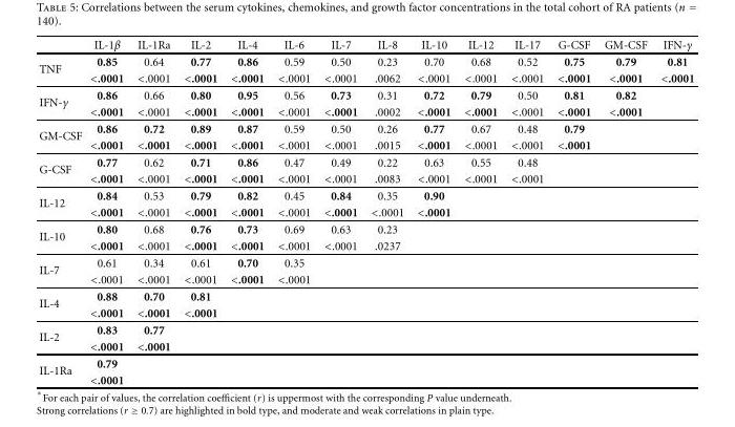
<table><thead><tr><td></td><td>IL-1β</td><td>IL-1Ra</td><td>IL-2</td><td>IL-4</td><td>IL-6</td><td>IL-7</td><td>IL-8</td><td>IL-10</td><td>IL-12</td><td>IL-17</td><td>G-CSF</td><td>GM-CSF</td><td>IFN-γ</td></tr></thead><tbody><tr><td rowspan="2">TNF</td><td>0.85</td><td>0.64</td><td>0.77</td><td>0.86</td><td>0.59</td><td>0.50</td><td>0.23</td><td>0.70</td><td>0.68</td><td>0.52</td><td>0.75</td><td>0.79</td><td>0.81</td></tr><tr><td>&lt;.0001</td><td>&lt;.0001</td><td>&lt;.0001</td><td>&lt;.0001</td><td>&lt;.0001</td><td>&lt;.0001</td><td>.0062</td><td>&lt;.0001</td><td>&lt;.0001</td><td>&lt;.0001</td><td>&lt;.0001</td><td>&lt;.0001</td><td>&lt;.0001</td></tr><tr><td rowspan="2">IFN-γ</td><td>0.86</td><td>0.66</td><td>0.80</td><td>0.95</td><td>0.56</td><td>0.73</td><td>0.31</td><td>0.72</td><td>0.79</td><td>0.50</td><td>0.81</td><td>0.82</td><td></td></tr><tr><td>&lt;.0001</td><td>&lt;.0001</td><td>&lt;.0001</td><td>&lt;.0001</td><td>&lt;.0001</td><td>&lt;.0001</td><td>.0002</td><td>&lt;.0001</td><td>&lt;.0001</td><td>&lt;.0001</td><td>&lt;.0001</td><td>&lt;.0001</td><td></td></tr><tr><td rowspan="2">GM-CSF</td><td>0.86</td><td>0.72</td><td>0.89</td><td>0.87</td><td>0.59</td><td>0.50</td><td>0.26</td><td>0.77</td><td>0.67</td><td>0.48</td><td>0.79</td><td></td><td></td></tr><tr><td>&lt;.0001</td><td>&lt;.0001</td><td>&lt;.0001</td><td>&lt;.0001</td><td>&lt;.0001</td><td>&lt;.0001</td><td>.0015</td><td>&lt;.0001</td><td>&lt;.0001</td><td>&lt;.0001</td><td>&lt;.0001</td><td></td><td></td></tr><tr><td rowspan="2">G-CSF</td><td>0.77</td><td>0.62</td><td>0.71</td><td>0.86</td><td>0.47</td><td>0.49</td><td>0.22</td><td>0.63</td><td>0.55</td><td>0.48</td><td></td><td></td><td></td></tr><tr><td>&lt;.0001</td><td>&lt;.0001</td><td>&lt;.0001</td><td>&lt;.0001</td><td>&lt;.0001</td><td>&lt;.0001</td><td>.0083</td><td>&lt;.0001</td><td>&lt;.0001</td><td>&lt;.0001</td><td></td><td></td><td></td></tr><tr><td rowspan="2">IL-12</td><td>0.84</td><td>0.53</td><td>0.79</td><td>0.82</td><td>0.45</td><td>0.84</td><td>0.35</td><td>0.90</td><td></td><td></td><td></td><td></td><td></td></tr><tr><td>&lt;.0001</td><td>&lt;.0001</td><td>&lt;.0001</td><td>&lt;.0001</td><td>&lt;.0001</td><td>&lt;.0001</td><td>&lt;.0001</td><td>&lt;.0001</td><td></td><td></td><td></td><td></td><td></td></tr><tr><td rowspan="2">IL-10</td><td>0.80</td><td>0.68</td><td>0.76</td><td>0.73</td><td>0.69</td><td>0.63</td><td>0.23</td><td></td><td></td><td></td><td></td><td></td><td></td></tr><tr><td>&lt;.0001</td><td>&lt;.0001</td><td>&lt;.0001</td><td>&lt;.0001</td><td>&lt;.0001</td><td>&lt;.0001</td><td>.0237</td><td></td><td></td><td></td><td></td><td></td><td></td></tr><tr><td rowspan="2">IL-7</td><td>0.61</td><td>0.34</td><td>0.61</td><td>0.70</td><td>0.35</td><td></td><td></td><td></td><td></td><td></td><td></td><td></td><td></td></tr><tr><td>&lt;.0001</td><td>&lt;.0001</td><td>&lt;.0001</td><td>&lt;.0001</td><td>&lt;.0001</td><td></td><td></td><td></td><td></td><td></td><td></td><td></td><td></td></tr><tr><td rowspan="2">IL-4</td><td>0.88</td><td>0.70</td><td>0.81</td><td></td><td></td><td></td><td></td><td></td><td></td><td></td><td></td><td></td><td></td></tr><tr><td>&lt;.0001</td><td>&lt;.0001</td><td>&lt;.0001</td><td></td><td></td><td></td><td></td><td></td><td></td><td></td><td></td><td></td><td></td></tr><tr><td rowspan="2">IL-2</td><td>0.83</td><td>0.77</td><td></td><td></td><td></td><td></td><td></td><td></td><td></td><td></td><td></td><td></td><td></td></tr><tr><td>&lt;.0001</td><td>&lt;.0001</td><td></td><td></td><td></td><td></td><td></td><td></td><td></td><td></td><td></td><td></td><td></td></tr><tr><td rowspan="2">IL-1Ra</td><td>0.79</td><td></td><td></td><td></td><td></td><td></td><td></td><td></td><td></td><td></td><td></td><td></td><td></td></tr><tr><td>&lt;.0001</td><td></td><td></td><td></td><td></td><td></td><td></td><td></td><td></td><td></td><td></td><td></td><td></td></tr></tbody></table>